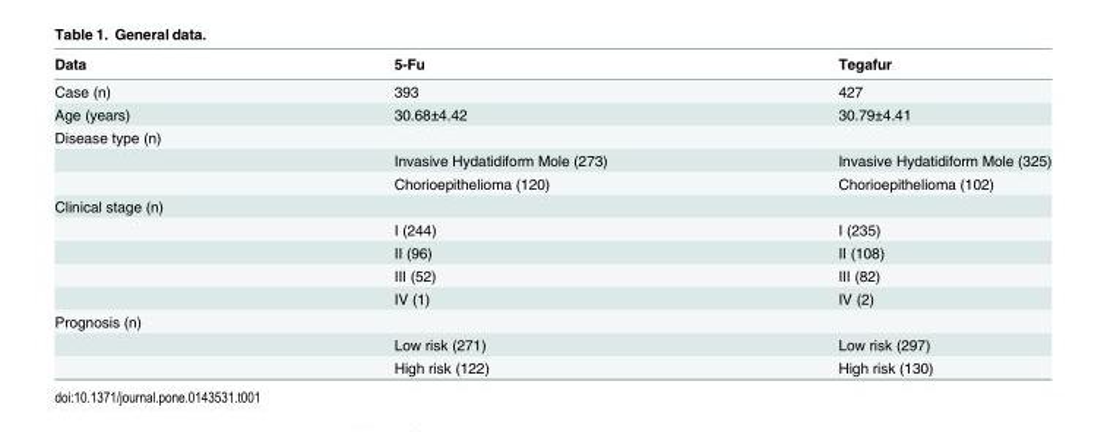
<table><thead><tr><td>Data</td><td>5-Fu</td><td>Tegafur</td></tr></thead><tbody><tr><td>Case (n)</td><td>393</td><td>427</td></tr><tr><td>Age (years)</td><td>30.68±4.42</td><td>30.79±4.41</td></tr><tr><td colspan="3">Disease type (n)</td></tr><tr><td></td><td>Invasive Hydatidiform Mole (273)</td><td>Invasive Hydatidiform Mole (325)</td></tr><tr><td></td><td>Chorioepithelioma (120)</td><td>Chorioepithelioma (102)</td></tr><tr><td colspan="3">Clinical stage (n)</td></tr><tr><td></td><td>I (244)</td><td>I (235)</td></tr><tr><td></td><td>II (96)</td><td>II (108)</td></tr><tr><td></td><td>III (52)</td><td>III (82)</td></tr><tr><td></td><td>IV (1)</td><td>IV (2)</td></tr><tr><td colspan="3">Prognosis (n)</td></tr><tr><td></td><td>Low risk (271)</td><td>Low risk (297)</td></tr><tr><td></td><td>High risk (122)</td><td>High risk (130)</td></tr></tbody></table>